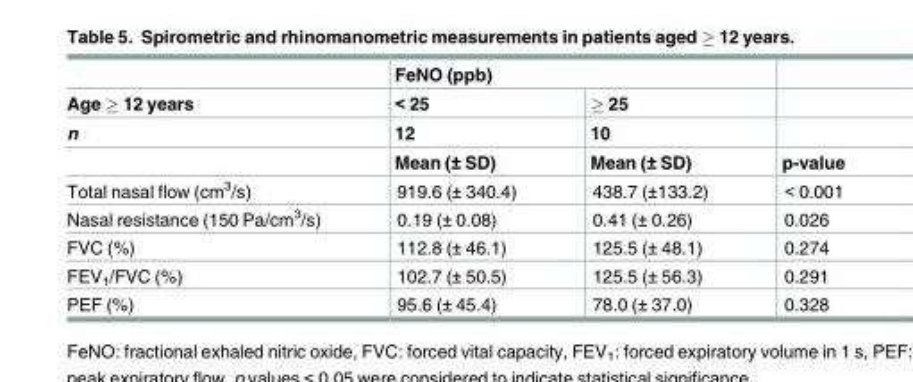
<table><thead><tr><td rowspan="4">Age ≥ 12 years n</td><td colspan="2">FeNO (ppb)</td><td rowspan="4">p-value</td></tr><tr><td rowspan="3">&lt; 25 12 Mean (± SD)</td><td rowspan="3">≥ 25 10 Mean (± SD)</td></tr><tr></tr><tr></tr></thead><tbody><tr><td>Total nasal flow (cm<sup>3</sup>/s)</td><td>919.6 (± 340.4)</td><td>438.7 (±133.2)</td><td>&lt; 0.001</td></tr><tr><td>Nasal resistance (150 Pa/cm<sup>3</sup>/s)</td><td>0.19 (± 0.08)</td><td>0.41 (± 0.26)</td><td>0.026</td></tr><tr><td>FVC (%)</td><td>112.8 (± 46.1)</td><td>125.5 (± 48.1)</td><td>0.274</td></tr><tr><td>FEV<sub>1</sub>/FVC (%)</td><td>102.7 (± 50.5)</td><td>125.5 (± 56.3)</td><td>0.291</td></tr><tr><td>PEF (%)</td><td>95.6 (± 45.4)</td><td>78.0 (± 37.0)</td><td>0.328</td></tr></tbody></table>